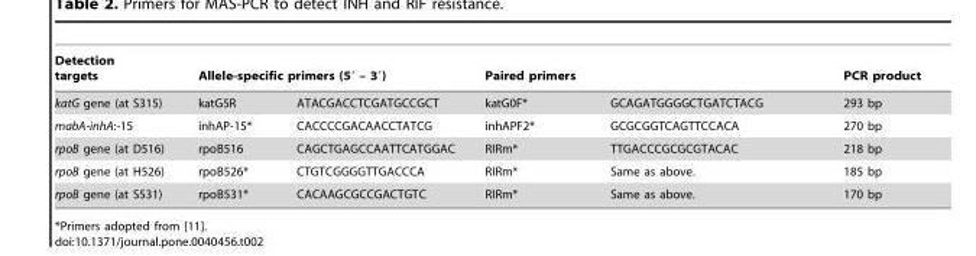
<table><thead><tr><td rowspan="2">Detection targets katG gene (at S315)</td><td colspan="2">Allele-specific primers (5′ – 3′)</td><td colspan="2">Paired primers</td><td rowspan="2">PCR product 293 bp</td></tr><tr><td>katG5R</td><td>ATACGACCTCGATGCCGCT</td><td>katG0F*</td><td>GCAGATGGGGCTGATCTACG</td></tr></thead><tbody><tr><td>mabA-inhA:-15</td><td>inhAP-15*</td><td>CACCCCGACAACCTATCG</td><td>inhAPF2*</td><td>GCGCGGTCAGTTCCACA</td><td>270 bp</td></tr><tr><td>rpoB gene (at D516)</td><td>rpoB516</td><td>CAGCTGAGCCAATTCATGGAC</td><td>RIRm*</td><td>TTGACCCGCGCGTACAC</td><td>218 bp</td></tr><tr><td>rpoB gene (at H526)</td><td>rpoB526*</td><td>CTGTCGGGGTTGACCCA</td><td>RIRm*</td><td>Same as above.</td><td>185 bp</td></tr><tr><td>rpoB gene (at S531)</td><td>rpoB531*</td><td>CACAAGCGCCGACTGTC</td><td>RIRm*</td><td>Same as above.</td><td>170 bp</td></tr></tbody></table>